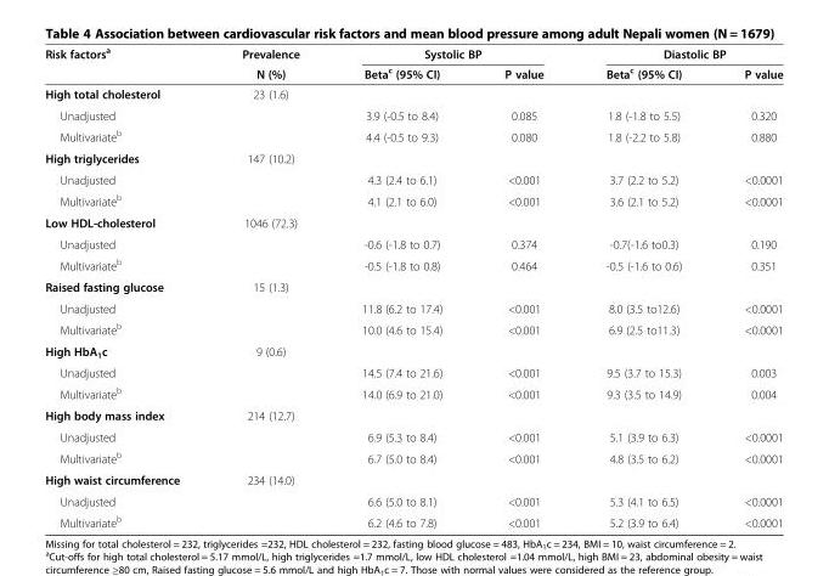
<table><thead><tr><td rowspan="2">Risk factors<sup>a</sup></td><td rowspan="2">Prevalence N (%)</td><td colspan="2">Systolic BP</td><td colspan="2">Diastolic BP</td></tr><tr><td>Beta<sup>c</sup> (95% CI)</td><td>P value</td><td>Beta<sup>c</sup> (95% CI)</td><td>P value</td></tr></thead><tbody><tr><td>High total cholesterol</td><td>23 (1.6)</td><td></td><td></td><td></td><td></td></tr><tr><td>Unadjusted</td><td></td><td>3.9 (-0.5 to 8.4)</td><td>0.085</td><td>1.8 (-1.8 to 5.5)</td><td>0.320</td></tr><tr><td>Multivariate<sup>b</sup></td><td></td><td>4.4 (-0.5 to 9.3)</td><td>0.080</td><td>1.8 (-2.2 to 5.8)</td><td>0.880</td></tr><tr><td>High triglycerides</td><td>147 (10.2)</td><td></td><td></td><td></td><td></td></tr><tr><td>Unadjusted</td><td></td><td>4.3 (2.4 to 6.1)</td><td>&lt;0.001</td><td>3.7 (2.2 to 5.2)</td><td>&lt;0.0001</td></tr><tr><td>Multivariate<sup>b</sup></td><td></td><td>4.1 (2.1 to 6.0)</td><td>&lt;0.001</td><td>3.6 (2.1 to 5.2)</td><td>&lt;0.0001</td></tr><tr><td>Low HDL-cholesterol</td><td>1046 (72.3)</td><td></td><td></td><td></td><td></td></tr><tr><td>Unadjusted</td><td></td><td>-0.6 (-1.8 to 0.7)</td><td>0.374</td><td>-0.7(-1.6 to0.3)</td><td>0.190</td></tr><tr><td>Multivariate<sup>b</sup></td><td></td><td>-0.5 (-1.8 to 0.8)</td><td>0.464</td><td>-0.5 (-1.6 to 0.6)</td><td>0.351</td></tr><tr><td>Raised fasting glucose</td><td>15 (1.3)</td><td></td><td></td><td></td><td></td></tr><tr><td>Unadjusted</td><td></td><td>11.8 (6.2 to 17.4)</td><td>&lt;0.001</td><td>8.0 (3.5 to12.6)</td><td>&lt;0.0001</td></tr><tr><td>Multivariate<sup>b</sup></td><td></td><td>10.0 (4.6 to 15.4)</td><td>&lt;0.001</td><td>6.9 (2.5 to11.3)</td><td>&lt;0.0001</td></tr><tr><td>High HbA<sub>1</sub>c</td><td>9 (0.6)</td><td></td><td></td><td></td><td></td></tr><tr><td>Unadjusted</td><td></td><td>14.5 (7.4 to 21.6)</td><td>&lt;0.001</td><td>9.5 (3.7 to 15.3)</td><td>0.003</td></tr><tr><td>Multivariate<sup>b</sup></td><td></td><td>14.0 (6.9 to 21.0)</td><td>&lt;0.001</td><td>9.3 (3.5 to 14.9)</td><td>0.004</td></tr><tr><td>High body mass index</td><td>214 (12.7)</td><td></td><td></td><td></td><td></td></tr><tr><td>Unadjusted</td><td></td><td>6.9 (5.3 to 8.4)</td><td>&lt;0.001</td><td>5.1 (3.9 to 6.3)</td><td>&lt;0.0001</td></tr><tr><td>Multivariate<sup>b</sup></td><td></td><td>6.7 (5.0 to 8.4)</td><td>&lt;0.001</td><td>4.8 (3.5 to 6.2)</td><td>&lt;0.0001</td></tr><tr><td>High waist circumference</td><td>234 (14.0)</td><td></td><td></td><td></td><td></td></tr><tr><td>Unadjusted</td><td></td><td>6.6 (5.0 to 8.1)</td><td>&lt;0.001</td><td>5.3 (4.1 to 6.5)</td><td>&lt;0.0001</td></tr><tr><td>Multivariate<sup>b</sup></td><td></td><td>6.2 (4.6 to 7.8)</td><td>&lt;0.001</td><td>5.2 (3.9 to 6.4)</td><td>&lt;0.0001</td></tr></tbody></table>